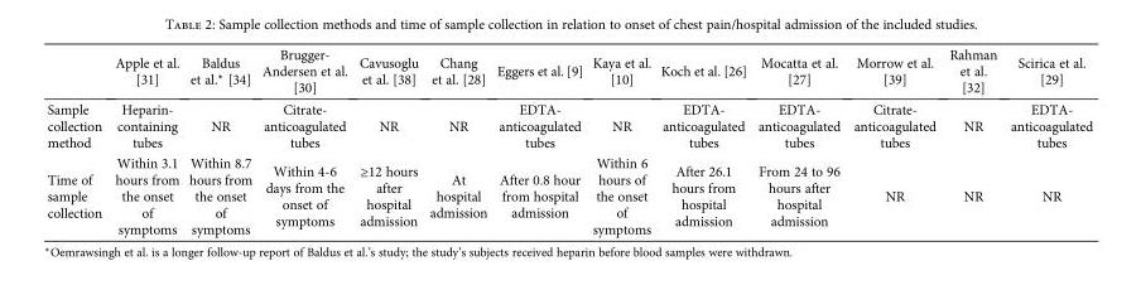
<table><thead><tr><td></td><td>Apple et al. [31]</td><td>Baldus et al.∗ [34]</td><td>Brugger- Andersen et al. [30]</td><td>Cavusoglu et al. [38]</td><td>Chang et al. [28]</td><td>Eggers et al. [9]</td><td>Kaya et al. [10]</td><td>Koch et al. [26]</td><td>Mocatta et al. [27]</td><td>Morrow et al. [39]</td><td>Rahman et al. [32]</td><td>Scirica et al. [29]</td></tr></thead><tbody><tr><td>Sample collection method</td><td>Heparin- containing tubes</td><td>NR</td><td>Citrate- anticoagulated tubes</td><td>NR</td><td>NR</td><td>EDTA- anticoagulated tubes</td><td>NR</td><td>EDTA- anticoagulated tubes</td><td>EDTA- anticoagulated tubes</td><td>Citrate- anticoagulated tubes</td><td>NR</td><td>EDTA- anticoagulated tubes</td></tr><tr><td>Time of sample collection</td><td>Within 3.1 hours from the onset of symptoms</td><td>Within 8.7 hours from the onset of symptoms</td><td>Within 4-6 days from the onset of symptoms</td><td>≥12 hours after hospital admission</td><td>At hospital admission</td><td>After 0.8 hour from hospital admission</td><td>Within 6 hours of the onset of symptoms</td><td>After 26.1 hours from hospital admission</td><td>From 24 to 96 hours after hospital admission</td><td>NR</td><td>NR</td><td>NR</td></tr></tbody></table>